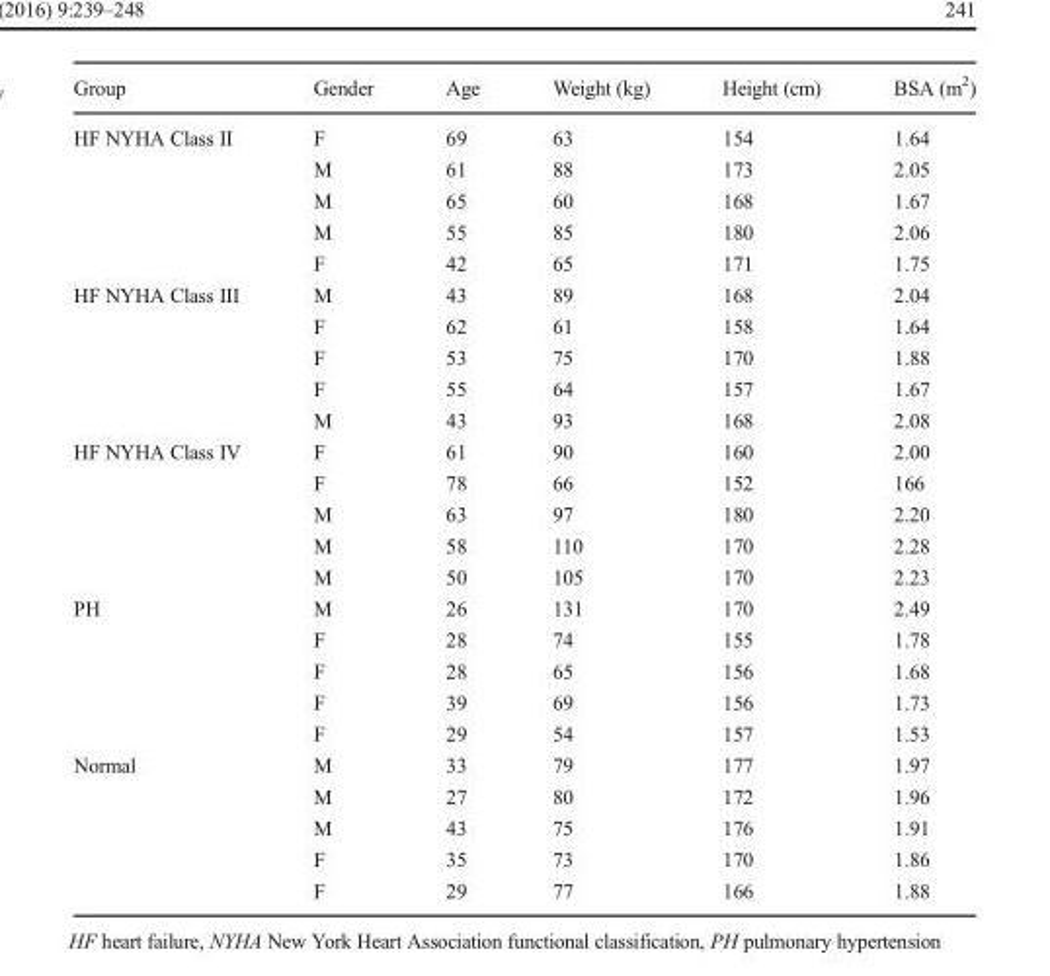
<table><thead><tr><td>Group</td><td>Gender</td><td>Age</td><td>Weight (kg)</td><td>Height (cm)</td><td>BSA (m<sup>2</sup>)</td></tr></thead><tbody><tr><td rowspan="5">HF NYHA Class II</td><td>F</td><td>69</td><td>63</td><td>154</td><td>1.64</td></tr><tr><td>M</td><td>61</td><td>88</td><td>173</td><td>2.05</td></tr><tr><td>M</td><td>65</td><td>60</td><td>168</td><td>1.67</td></tr><tr><td>M</td><td>55</td><td>85</td><td>180</td><td>2.06</td></tr><tr><td>F</td><td>42</td><td>65</td><td>171</td><td>1.75</td></tr><tr><td rowspan="5">HF NYHA Class III</td><td>M</td><td>43</td><td>89</td><td>168</td><td>2.04</td></tr><tr><td>F</td><td>62</td><td>61</td><td>158</td><td>1.64</td></tr><tr><td>F</td><td>53</td><td>75</td><td>170</td><td>1.88</td></tr><tr><td>F</td><td>55</td><td>64</td><td>157</td><td>1.67</td></tr><tr><td>M</td><td>43</td><td>93</td><td>168</td><td>2.08</td></tr><tr><td rowspan="5">HF NYHA Class IV</td><td>F</td><td>61</td><td>90</td><td>160</td><td>2.00</td></tr><tr><td>F</td><td>78</td><td>66</td><td>152</td><td>166</td></tr><tr><td>M</td><td>63</td><td>97</td><td>180</td><td>2.20</td></tr><tr><td>M</td><td>58</td><td>110</td><td>170</td><td>2.28</td></tr><tr><td>M</td><td>50</td><td>105</td><td>170</td><td>2.23</td></tr><tr><td rowspan="5">PH</td><td>M</td><td>26</td><td>131</td><td>170</td><td>2.49</td></tr><tr><td>F</td><td>28</td><td>74</td><td>155</td><td>1.78</td></tr><tr><td>F</td><td>28</td><td>65</td><td>156</td><td>1.68</td></tr><tr><td>F</td><td>39</td><td>69</td><td>156</td><td>1.73</td></tr><tr><td>F</td><td>29</td><td>54</td><td>157</td><td>1.53</td></tr><tr><td rowspan="5">Normal</td><td>M</td><td>33</td><td>79</td><td>177</td><td>1.97</td></tr><tr><td>M</td><td>27</td><td>80</td><td>172</td><td>1.96</td></tr><tr><td>M</td><td>43</td><td>75</td><td>176</td><td>1.91</td></tr><tr><td>F</td><td>35</td><td>73</td><td>170</td><td>1.86</td></tr><tr><td>F</td><td>29</td><td>77</td><td>166</td><td>1.88</td></tr></tbody></table>